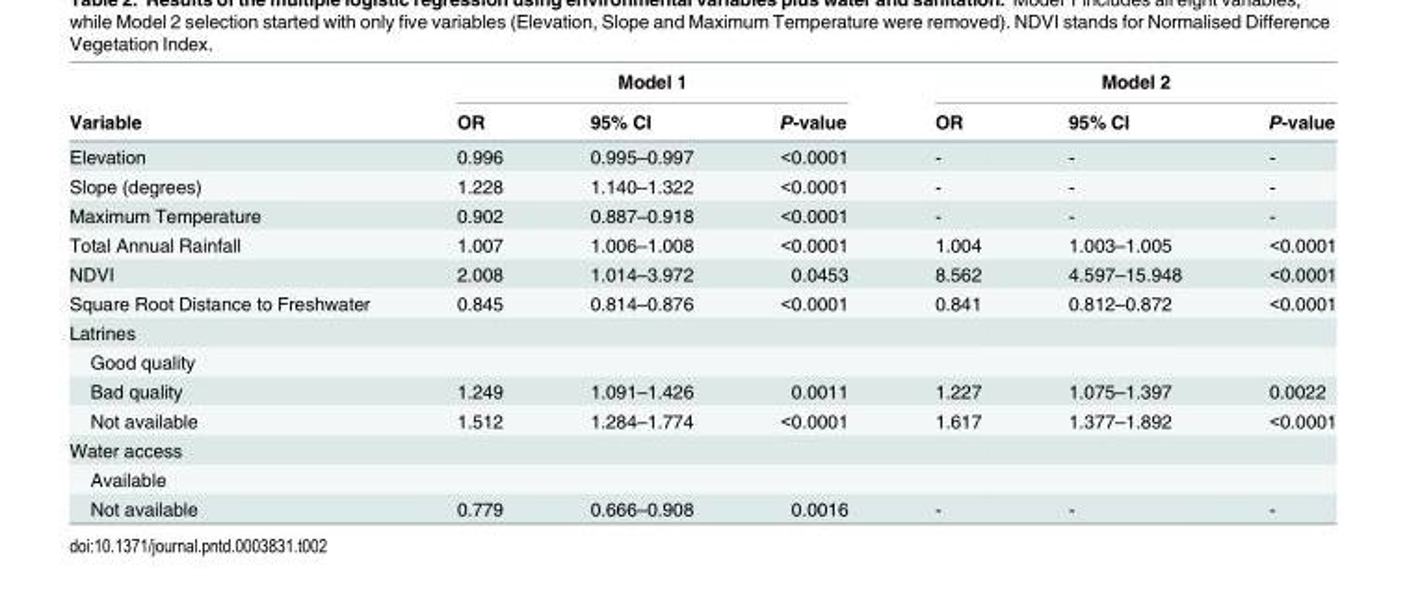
<table><thead><tr><td rowspan="2">Variable</td><td colspan="3">Model 1</td><td colspan="3">Model 2</td></tr><tr><td>OR</td><td>95% CI</td><td>P-value</td><td>OR</td><td>95% CI</td><td>P-value</td></tr></thead><tbody><tr><td>Elevation</td><td>0.996</td><td>0.995–0.997</td><td>&lt;0.0001</td><td>-</td><td>-</td><td>-</td></tr><tr><td>Slope (degrees)</td><td>1.228</td><td>1.140–1.322</td><td>&lt;0.0001</td><td>-</td><td>-</td><td>-</td></tr><tr><td>Maximum Temperature</td><td>0.902</td><td>0.887–0.918</td><td>&lt;0.0001</td><td>-</td><td>-</td><td>-</td></tr><tr><td>Total Annual Rainfall</td><td>1.007</td><td>1.006–1.008</td><td>&lt;0.0001</td><td>1.004</td><td>1.003–1.005</td><td>&lt;0.0001</td></tr><tr><td>NDVI</td><td>2.008</td><td>1.014–3.972</td><td>0.0453</td><td>8.562</td><td>4.597–15.948</td><td>&lt;0.0001</td></tr><tr><td>Square Root Distance to Freshwater</td><td>0.845</td><td>0.814–0.876</td><td>&lt;0.0001</td><td>0.841</td><td>0.812–0.872</td><td>&lt;0.0001</td></tr><tr><td colspan="7">Latrines</td></tr><tr><td colspan="7">Good quality</td></tr><tr><td>Bad quality</td><td>1.249</td><td>1.091–1.426</td><td>0.0011</td><td>1.227</td><td>1.075–1.397</td><td>0.0022</td></tr><tr><td>Not available</td><td>1.512</td><td>1.284–1.774</td><td>&lt;0.0001</td><td>1.617</td><td>1.377–1.892</td><td>&lt;0.0001</td></tr><tr><td colspan="7">Water access</td></tr><tr><td colspan="7">Available</td></tr><tr><td>Not available</td><td>0.779</td><td>0.666–0.908</td><td>0.0016</td><td>-</td><td>-</td><td>-</td></tr></tbody></table>